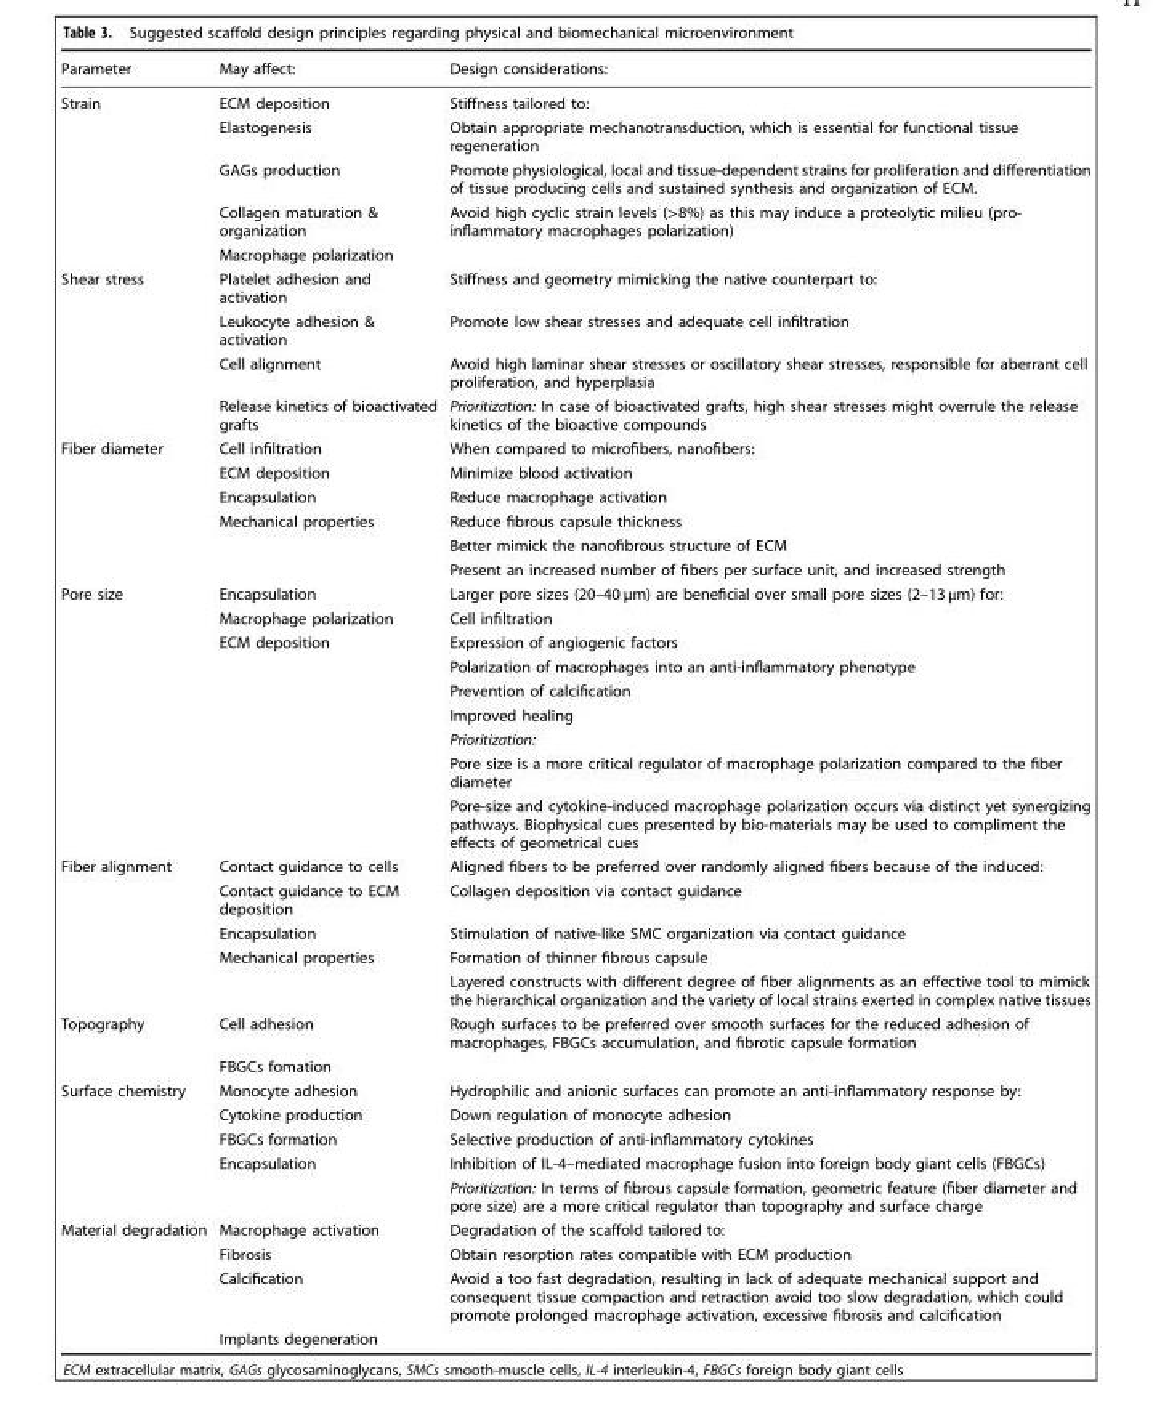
<table><thead><tr><td>Parameter</td><td>May affect:</td><td>Design considerations:</td></tr></thead><tbody><tr><td rowspan="5">Strain</td><td>ECM deposition</td><td>Stiffness tailored to:</td></tr><tr><td>Elastogenesis</td><td>Obtain appropriate mechanotransduction, which is essential for functional tissue regeneration</td></tr><tr><td>GAGs production</td><td>Promote physiological, local and tissue-dependent strains for proliferation and differentiation of tissue producing cells and sustained synthesis and organization of ECM.</td></tr><tr><td>Collagen maturation &amp; organization</td><td>Avoid high cyclic strain levels (&gt;8%) as this may induce a proteolytic milieu (pro- inflammatory macrophages polarization)</td></tr><tr><td>Macrophage polarization</td><td></td></tr><tr><td rowspan="4">Shear stress</td><td>Platelet adhesion and activation</td><td>Stiffness and geometry mimicking the native counterpart to:</td></tr><tr><td>Leukocyte adhesion &amp; activation</td><td>Promote low shear stresses and adequate cell infiltration</td></tr><tr><td>Cell alignment</td><td>Avoid high laminar shear stresses or oscillatory shear stresses, responsible for aberrant cell proliferation, and hyperplasia</td></tr><tr><td>Release kinetics of bioactivated grafts</td><td>Prioritization: In case of bioactivated grafts, high shear stresses might overrule the release kinetics of the bioactive compounds</td></tr><tr><td rowspan="6">Fiber diameter</td><td>Cell infiltration</td><td>When compared to microfibers, nanofibers:</td></tr><tr><td>ECM deposition</td><td>Minimize blood activation</td></tr><tr><td>Encapsulation</td><td>Reduce macrophage activation</td></tr><tr><td>Mechanical properties</td><td>Reduce fibrous capsule thickness</td></tr><tr><td></td><td>Better mimick the nanofibrous structure of ECM</td></tr><tr><td></td><td>Present an increased number of fibers per surface unit, and increased strength</td></tr><tr><td rowspan="9">Pore size</td><td>Encapsulation</td><td>Larger pore sizes (20–40 µm) are beneficial over small pore sizes (2–13 μm) for:</td></tr><tr><td>Macrophage polarization</td><td>Cell infiltration</td></tr><tr><td>ECM deposition</td><td>Expression of angiogenic factors</td></tr><tr><td></td><td>Polarization of macrophages into an anti-inflammatory phenotype</td></tr><tr><td></td><td>Prevention of calcification</td></tr><tr><td></td><td>Improved healing</td></tr><tr><td></td><td>Prioritization:</td></tr><tr><td></td><td>Pore size is a more critical regulator of macrophage polarization compared to the fiber diameter</td></tr><tr><td></td><td>Pore-size and cytokine-induced macrophage polarization occurs via distinct yet synergizing pathways. Biophysical cues presented by bio-materials may be used to compliment the effects of geometrical cues</td></tr><tr><td rowspan="5">Fiber alignment</td><td>Contact guidance to cells</td><td>Aligned fibers to be preferred over randomly aligned fibers because of the induced:</td></tr><tr><td>Contact guidance to ECM deposition</td><td>Collagen deposition via contact guidance</td></tr><tr><td>Encapsulation</td><td>Stimulation of native-like SMC organization via contact guidance</td></tr><tr><td>Mechanical properties</td><td>Formation of thinner fibrous capsule</td></tr><tr><td></td><td>Layered constructs with different degree of fiber alignments as an effective tool to mimick the hierarchical organization and the variety of local strains exerted in complex native tissues</td></tr><tr><td rowspan="2">Topography</td><td>Cell adhesion</td><td>Rough surfaces to be preferred over smooth surfaces for the reduced adhesion of macrophages, FBGCs accumulation, and fibrotic capsule formation</td></tr><tr><td>FBGCs fomation</td><td></td></tr><tr><td rowspan="5">Surface chemistry</td><td>Monocyte adhesion</td><td>Hydrophilic and anionic surfaces can promote an anti-inflammatory response by:</td></tr><tr><td>Cytokine production</td><td>Down regulation of monocyte adhesion</td></tr><tr><td>FBGCs formation</td><td>Selective production of anti-inflammatory cytokines</td></tr><tr><td>Encapsulation</td><td>Inhibition of IL-4–mediated macrophage fusion into foreign body giant cells (FBGCs)</td></tr><tr><td></td><td>Prioritization: In terms of fibrous capsule formation, geometric feature (fiber diameter and pore size) are a more critical regulator than topography and surface charge</td></tr><tr><td rowspan="4">Material degradation</td><td>Macrophage activation</td><td>Degradation of the scaffold tailored to:</td></tr><tr><td>Fibrosis</td><td>Obtain resorption rates compatible with ECM production</td></tr><tr><td>Calcification</td><td>Avoid a too fast degradation, resulting in lack of adequate mechanical support and consequent tissue compaction and retraction avoid too slow degradation, which could promote prolonged macrophage activation, excessive fibrosis and calcification</td></tr><tr><td>Implants degeneration</td><td></td></tr></tbody></table>